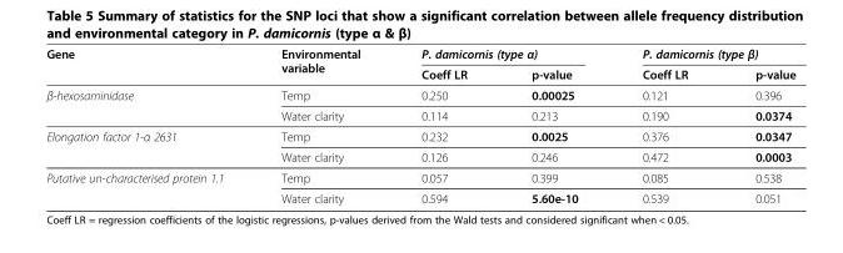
<table><thead><tr><td rowspan="2">Gene</td><td rowspan="2">Environmental variable</td><td colspan="2">P. damicornis (type α)</td><td colspan="2">P. damicornis (type β)</td></tr><tr><td>Coeff LR</td><td>p-value</td><td>Coeff LR</td><td>p-value</td></tr></thead><tbody><tr><td rowspan="2">β-hexosaminidase</td><td>Temp</td><td>0.250</td><td>0.00025</td><td>0.121</td><td>0.396</td></tr><tr><td>Water clarity</td><td>0.114</td><td>0.213</td><td>0.190</td><td>0.0374</td></tr><tr><td rowspan="2">Elongation factor 1-α 2631</td><td>Temp</td><td>0.232</td><td>0.0025</td><td>0.376</td><td>0.0347</td></tr><tr><td>Water clarity</td><td>0.126</td><td>0.246</td><td>0.472</td><td>0.0003</td></tr><tr><td rowspan="2">Putative un-characterised protein 1.1</td><td>Temp</td><td>0.057</td><td>0.399</td><td>0.085</td><td>0.538</td></tr><tr><td>Water clarity</td><td>0.594</td><td>5.60e-10</td><td>0.539</td><td>0.051</td></tr></tbody></table>